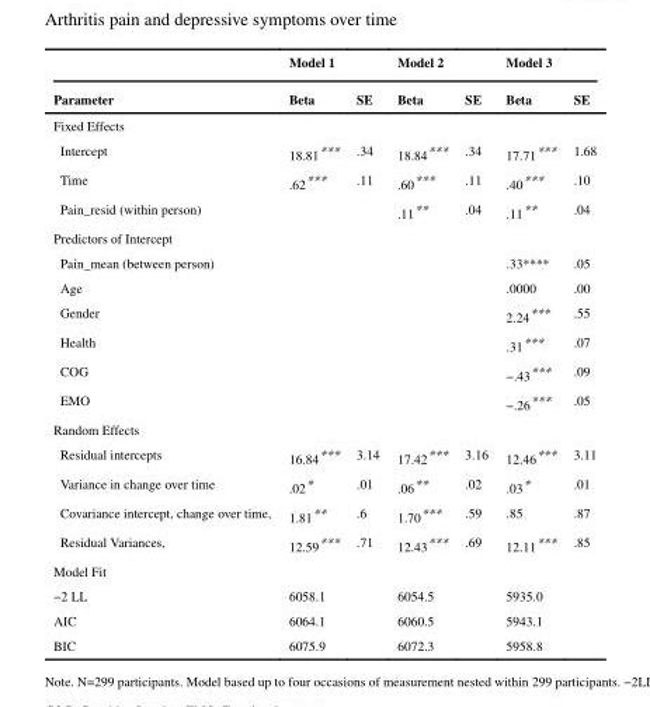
<table><thead><tr><td rowspan="2">Parameter</td><td rowspan="2">Model 1 Beta</td><td rowspan="2">SE</td><td rowspan="2">Model 2 Beta</td><td rowspan="2">SE</td><td rowspan="2">Model 3 Beta</td><td rowspan="2">SE</td></tr><tr></tr></thead><tbody><tr><td colspan="7">Fixed Effects</td></tr><tr><td>Intercept</td><td>18.81***</td><td>.34</td><td>18.84***</td><td>.34</td><td>17.71***</td><td>1.68</td></tr><tr><td>Time</td><td>.62***</td><td>.11</td><td>.60***</td><td>.11</td><td>.40***</td><td>.10</td></tr><tr><td>Pain_resid (within person)</td><td></td><td></td><td>.11**</td><td>.04</td><td>.11**</td><td>.04</td></tr><tr><td colspan="7">Predictors of Intercept</td></tr><tr><td>Pain_mean (between person)</td><td></td><td></td><td></td><td></td><td>.33****</td><td>.05</td></tr><tr><td>Age</td><td></td><td></td><td></td><td></td><td>.0000</td><td>.00</td></tr><tr><td>Gender</td><td></td><td></td><td></td><td></td><td>2.24***</td><td>.55</td></tr><tr><td>Health</td><td></td><td></td><td></td><td></td><td>.31***</td><td>.07</td></tr><tr><td>COG</td><td></td><td></td><td></td><td></td><td>−.43***</td><td>.09</td></tr><tr><td>EMO</td><td></td><td></td><td></td><td></td><td>−.26***</td><td>.05</td></tr><tr><td colspan="7">Random Effects</td></tr><tr><td>Residual intercepts</td><td>16.84***</td><td>3.14</td><td>17.42***</td><td>3.16</td><td>12.46***</td><td>3.11</td></tr><tr><td>Variance in change over time</td><td>.02*</td><td>.01</td><td>.06**</td><td>.02</td><td>.03*</td><td>.01</td></tr><tr><td>Covariance intercept, change over time,</td><td>1.81**</td><td>.6</td><td>1.70***</td><td>.59</td><td>.85</td><td>.87</td></tr><tr><td>Residual Variances,</td><td>12.59***</td><td>.71</td><td>12.43***</td><td>.69</td><td>12.11***</td><td>.85</td></tr><tr><td colspan="7">Model Fit</td></tr><tr><td>−2 LL</td><td>6058.1</td><td></td><td>6054.5</td><td></td><td>5935.0</td><td></td></tr><tr><td>AIC</td><td>6064.1</td><td></td><td>6060.5</td><td></td><td>5943.1</td><td></td></tr><tr><td>BIC</td><td>6075.9</td><td></td><td>6072.3</td><td></td><td>5958.8</td><td></td></tr></tbody></table>